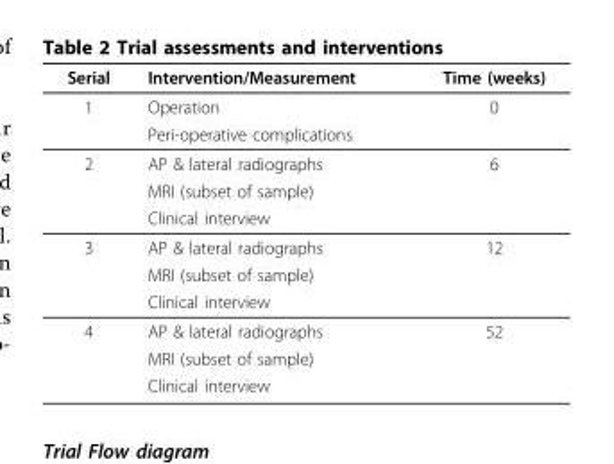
<table><thead><tr><td>Serial</td><td>Intervention/Measurement</td><td>Time (weeks)</td></tr></thead><tbody><tr><td rowspan="2">1</td><td>Operation</td><td>0</td></tr><tr><td>Peri-operative complications</td><td></td></tr><tr><td rowspan="3">2</td><td>AP &amp; lateral radiographs</td><td>6</td></tr><tr><td>MRI (subset of sample)</td><td></td></tr><tr><td>Clinical interview</td><td></td></tr><tr><td rowspan="3">3</td><td>AP &amp; lateral radiographs</td><td>12</td></tr><tr><td>MRI (subset of sample)</td><td></td></tr><tr><td>Clinical interview</td><td></td></tr><tr><td rowspan="3">4</td><td>AP &amp; lateral radiographs</td><td>52</td></tr><tr><td>MRI (subset of sample)</td><td></td></tr><tr><td>Clinical interview</td><td></td></tr></tbody></table>